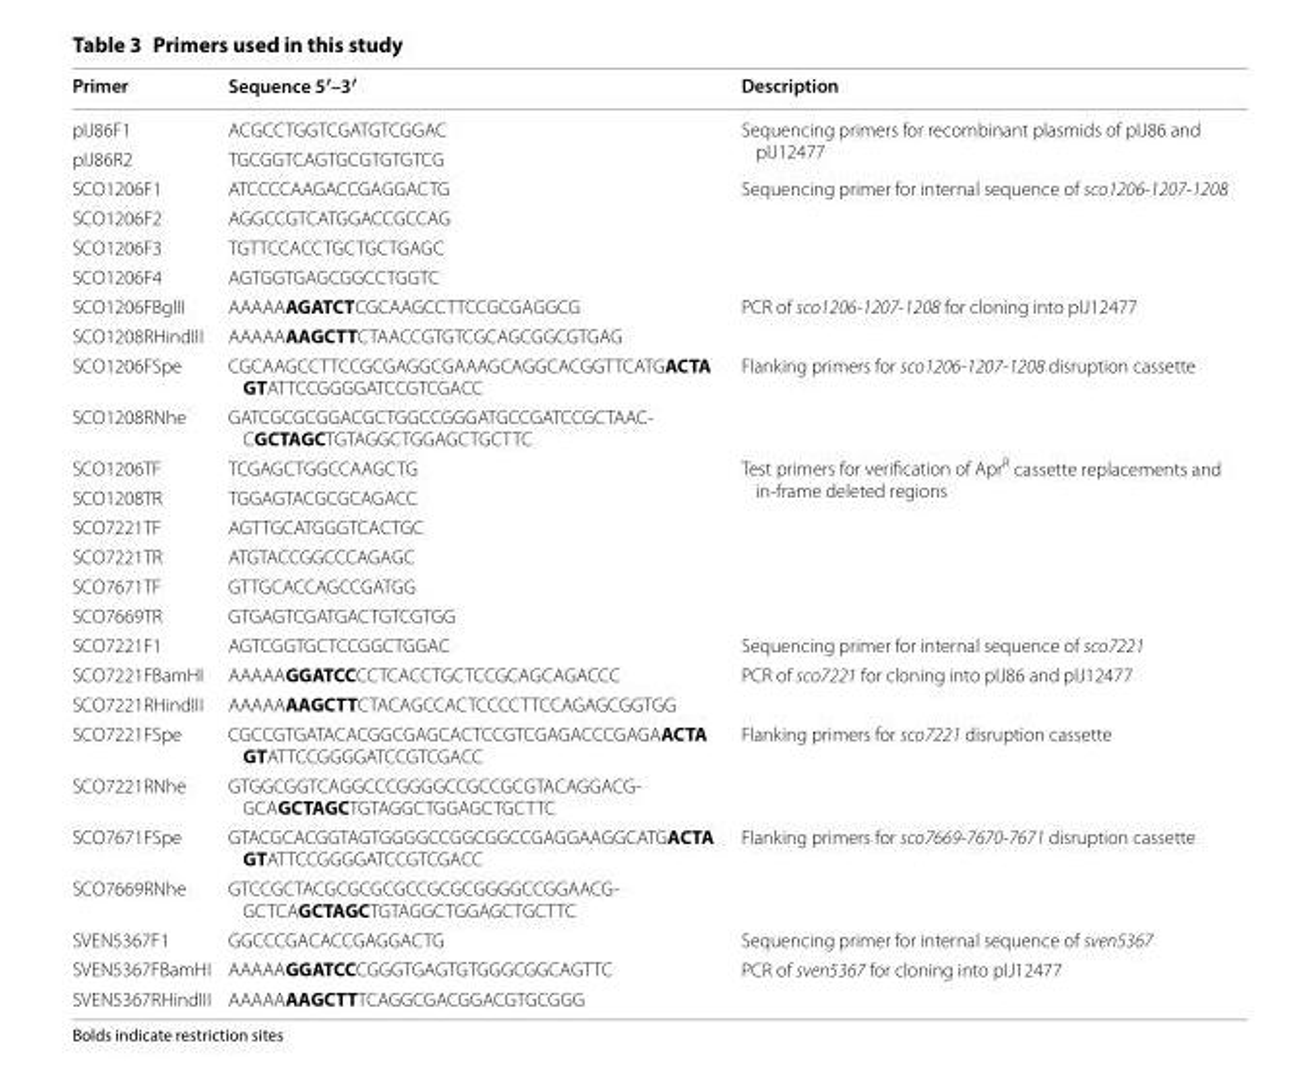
<table><thead><tr><td>Primer</td><td>Sequence 5′–3′</td><td>Description</td></tr></thead><tbody><tr><td>pIJ86F1</td><td>ACGCCTGGTCGATGTCGGAC</td><td rowspan="2">Sequencing primers for recombinant plasmids of pIJ86 and pIJ12477</td></tr><tr><td>pIJ86R2</td><td>TGCGGTCAGTGCGTGTGTCG</td></tr><tr><td>SCO1206F1</td><td>ATCCCCAAGACCGAGGACTG</td><td rowspan="4">Sequencing primer for internal sequence of sco1206‑1207‑1208</td></tr><tr><td>SCO1206F2</td><td>AGGCCGTCATGGACCGCCAG</td></tr><tr><td>SCO1206F3</td><td>TGTTCCACCTGCTGCTGAGC</td></tr><tr><td>SCO1206F4</td><td>AGTGGTGAGCGGCCTGGTC</td></tr><tr><td>SCO1206FBglII</td><td>AAAAAAGATCTCGCAAGCCTTCCGCGAGGCG</td><td rowspan="2">PCR of sco1206‑1207‑1208 for cloning into pIJ12477</td></tr><tr><td>SCO1208RHindIII</td><td>AAAAAAAGCTTCTAACCGTGTCGCAGCGGCGTGAG</td></tr><tr><td>SCO1206FSpe</td><td>CGCAAGCCTTCCGCGAGGCGAAAGCAGGCACGGTTCATGACTA GTATTCCGGGGATCCGTCGACC</td><td rowspan="2">Flanking primers for sco1206‑1207‑1208 disruption cassette</td></tr><tr><td>SCO1208RNhe</td><td>GATCGCGCGGACGCTGGCCGGGATGCCGATCCGCTAAC‑ CGCTAGCTGTAGGCTGGAGCTGCTTC</td></tr><tr><td>SCO1206TF</td><td>TCGAGCTGGCCAAGCTG</td><td rowspan="6">Test primers for verification of Apr<sup>R</sup> cassette replacements and in‑frame deleted regions</td></tr><tr><td>SCO1208TR</td><td>TGGAGTACGCGCAGACC</td></tr><tr><td>SCO7221TF</td><td>AGTTGCATGGGTCACTGC</td></tr><tr><td>SCO7221TR</td><td>ATGTACCGGCCCAGAGC</td></tr><tr><td>SCO7671TF</td><td>GTTGCACCAGCCGATGG</td></tr><tr><td>SCO7669TR</td><td>GTGAGTCGATGACTGTCGTGG</td></tr><tr><td>SCO7221F1</td><td>AGTCGGTGCTCCGGCTGGAC</td><td>Sequencing primer for internal sequence of sco7221</td></tr><tr><td>SCO7221FBamHI</td><td>AAAAAGGATCCCCTCACCTGCTCCGCAGCAGACCC</td><td rowspan="2">PCR of sco7221 for cloning into pIJ86 and pIJ12477</td></tr><tr><td>SCO7221RHindIII</td><td>AAAAAAAGCTTCTACAGCCACTCCCCTTCCAGAGCGGTGG</td></tr><tr><td>SCO7221FSpe</td><td>CGCCGTGATACACGGCGAGCACTCCGTCGAGACCCGAGAACTA GTATTCCGGGGATCCGTCGACC</td><td rowspan="2">Flanking primers for sco7221 disruption cassette</td></tr><tr><td>SCO7221RNhe</td><td>GTGGCGGTCAGGCCCGGGGCCGCCGCGTACAGGACG‑ GCAGCTAGCTGTAGGCTGGAGCTGCTTC</td></tr><tr><td>SCO7671FSpe</td><td>GTACGCACGGTAGTGGGGCCGGCGGCCGAGGAAGGCATGACTA GTATTCCGGGGATCCGTCGACC</td><td rowspan="2">Flanking primers for sco7669‑7670‑7671 disruption cassette</td></tr><tr><td>SCO7669RNhe</td><td>GTCCGCTACGCGCGCGCCGCGCGGGGCCGGAACG‑ GCTCAGCTAGCTGTAGGCTGGAGCTGCTTC</td></tr><tr><td>SVEN5367F1</td><td>GGCCCGACACCGAGGACTG</td><td>Sequencing primer for internal sequence of sven5367</td></tr><tr><td>SVEN5367FBamHI</td><td>AAAAAGGATCCCGGGTGAGTGTGGGCGGCAGTTC</td><td rowspan="2">PCR of sven5367 for cloning into pIJ12477</td></tr><tr><td>SVEN5367RHindIII</td><td>AAAAAAAGCTTTCAGGCGACGGACGTGCGGG</td></tr></tbody></table>